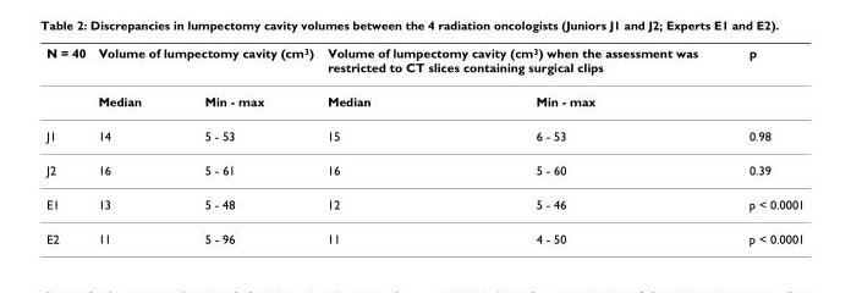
<table><thead><tr><td rowspan="2">N = 40</td><td colspan="2">Volume of lumpectomy cavity (cm<sup>3</sup>)</td><td colspan="2">Volume of lumpectomy cavity (cm<sup>3</sup>) when the assessment was restricted to CT slices containing surgical clips</td><td rowspan="2">p</td></tr><tr><td>Median</td><td>Min - max</td><td>Median</td><td>Min - max</td></tr></thead><tbody><tr><td>J1</td><td>14</td><td>5 - 53</td><td>15</td><td>6 - 53</td><td>0.98</td></tr><tr><td>J2</td><td>16</td><td>5 - 61</td><td>16</td><td>5 - 60</td><td>0.39</td></tr><tr><td>E1</td><td>13</td><td>5 - 48</td><td>12</td><td>5 - 46</td><td>p &lt; 0.0001</td></tr><tr><td>E2</td><td>11</td><td>5 - 96</td><td>11</td><td>4 - 50</td><td>p &lt; 0.0001</td></tr></tbody></table>